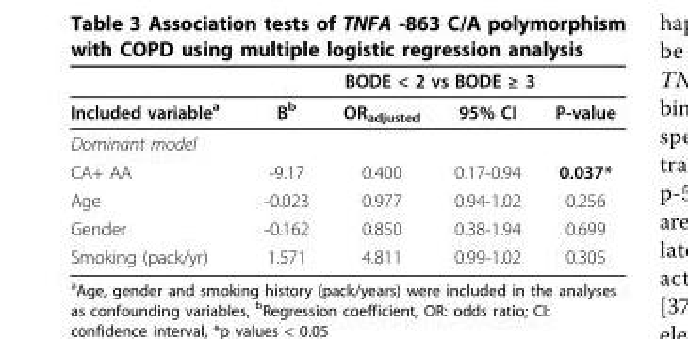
<table><thead><tr><td rowspan="2">Included variable<sup>a</sup></td><td colspan="4">BODE &lt; 2 vs BODE ≥ 3</td></tr><tr><td>B<sup>b</sup></td><td>OR<sub>adjusted</sub></td><td>95% CI</td><td>P-value</td></tr></thead><tbody><tr><td colspan="5">Dominant model</td></tr><tr><td>CA+ AA</td><td>-9.17</td><td>0.400</td><td>0.17-0.94</td><td>0.037*</td></tr><tr><td>Age</td><td>-0.023</td><td>0.977</td><td>0.94-1.02</td><td>0.256</td></tr><tr><td>Gender</td><td>-0.162</td><td>0.850</td><td>0.38-1.94</td><td>0.699</td></tr><tr><td>Smoking (pack/yr)</td><td>1.571</td><td>4.811</td><td>0.99-1.02</td><td>0.305</td></tr></tbody></table>